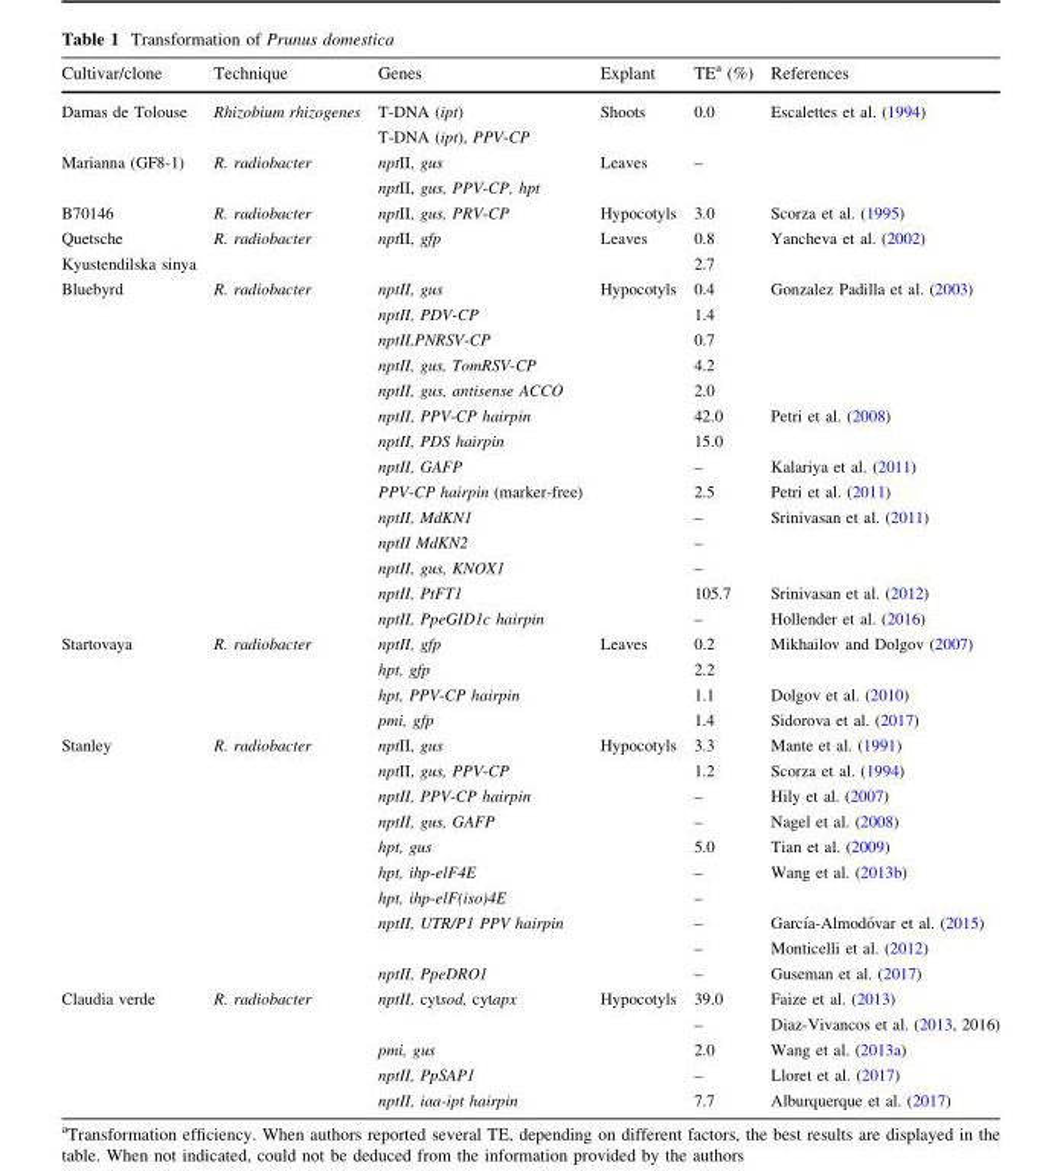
<table><thead><tr><td>Cultivar/clone</td><td>Technique</td><td>Genes</td><td>Explant</td><td>TE<sup>a</sup> (%)</td><td>References</td></tr></thead><tbody><tr><td rowspan="2">Damas de Tolouse</td><td rowspan="2">Rhizobium rhizogenes</td><td>T-DNA (ipt)</td><td rowspan="2">Shoots</td><td rowspan="2">0.0</td><td rowspan="4">Escalettes et al. (1994)</td></tr><tr><td>T-DNA (ipt), PPV-CP</td></tr><tr><td rowspan="2">Marianna (GF8-1)</td><td rowspan="2">R. radiobacter</td><td>nptII, gus</td><td rowspan="2">Leaves</td><td rowspan="2">–</td></tr><tr><td>nptII, gus, PPV-CP, hpt</td></tr><tr><td>B70146</td><td>R. radiobacter</td><td>nptII, gus, PRV-CP</td><td>Hypocotyls</td><td>3.0</td><td>Scorza et al. (1995)</td></tr><tr><td>Quetsche</td><td rowspan="2">R. radiobacter</td><td rowspan="2">nptII, gfp</td><td rowspan="2">Leaves</td><td>0.8</td><td rowspan="2">Yancheva et al. (2002)</td></tr><tr><td>Kyustendilska sinya</td><td>2.7</td></tr><tr><td rowspan="14">Bluebyrd</td><td rowspan="14">R. radiobacter</td><td>nptII, gus</td><td rowspan="14">Hypocotyls</td><td>0.4</td><td rowspan="5">Gonzalez Padilla et al. (2003)</td></tr><tr><td>nptII, PDV-CP</td><td>1.4</td></tr><tr><td>nptII,PNRSV-CP</td><td>0.7</td></tr><tr><td>nptII, gus, TomRSV-CP</td><td>4.2</td></tr><tr><td>nptII, gus, antisense ACCO</td><td>2.0</td></tr><tr><td>nptII, PPV-CP hairpin</td><td>42.0</td><td rowspan="2">Petri et al. (2008)</td></tr><tr><td>nptII, PDS hairpin</td><td>15.0</td></tr><tr><td>nptII, GAFP</td><td>–</td><td>Kalariya et al. (2011)</td></tr><tr><td>PPV-CP hairpin (marker-free)</td><td>2.5</td><td>Petri et al. (2011)</td></tr><tr><td>nptII, MdKN1</td><td>–</td><td rowspan="3">Srinivasan et al. (2011)</td></tr><tr><td>nptII MdKN2</td><td>–</td></tr><tr><td>nptII, gus, KNOX1</td><td>–</td></tr><tr><td>nptII, PtFT1</td><td>105.7</td><td>Srinivasan et al. (2012)</td></tr><tr><td>nptII, PpeGID1c hairpin</td><td>–</td><td>Hollender et al. (2016)</td></tr><tr><td rowspan="4">Startovaya</td><td rowspan="4">R. radiobacter</td><td>nptII, gfp</td><td rowspan="4">Leaves</td><td>0.2</td><td rowspan="2">Mikhailov and Dolgov (2007)</td></tr><tr><td>hpt, gfp</td><td>2.2</td></tr><tr><td>hpt, PPV-CP hairpin</td><td>1.1</td><td>Dolgov et al. (2010)</td></tr><tr><td>pmi, gfp</td><td>1.4</td><td>Sidorova et al. (2017)</td></tr><tr><td rowspan="10">Stanley</td><td rowspan="10">R. radiobacter</td><td>nptII, gus</td><td rowspan="10">Hypocotyls</td><td>3.3</td><td>Mante et al. (1991)</td></tr><tr><td>nptII, gus, PPV-CP</td><td>1.2</td><td>Scorza et al. (1994)</td></tr><tr><td>nptII, PPV-CP hairpin</td><td>–</td><td>Hily et al. (2007)</td></tr><tr><td>nptII, gus, GAFP</td><td>–</td><td>Nagel et al. (2008)</td></tr><tr><td>hpt, gus</td><td>5.0</td><td>Tian et al. (2009)</td></tr><tr><td>hpt, ihp-elF4E</td><td>–</td><td rowspan="2">Wang et al. (2013b)</td></tr><tr><td>hpt, ihp-elF(iso)4E</td><td>–</td></tr><tr><td rowspan="2">nptII, UTR/P1 PPV hairpin</td><td>–</td><td>Garcı´a-Almodo´var et al. (2015)</td></tr><tr><td>–</td><td>Monticelli et al. (2012)</td></tr><tr><td>nptII, PpeDRO1</td><td>–</td><td>Guseman et al. (2017)</td></tr><tr><td rowspan="5">Claudia verde</td><td rowspan="5">R. radiobacter</td><td rowspan="2">nptII, cytsod, cytapx</td><td rowspan="5">Hypocotyls</td><td>39.0</td><td>Faize et al. (2013)</td></tr><tr><td>–</td><td>Diaz-Vivancos et al. (2013, 2016)</td></tr><tr><td>pmi, gus</td><td>2.0</td><td>Wang et al. (2013a)</td></tr><tr><td>nptII, PpSAP1</td><td>–</td><td>Lloret et al. (2017)</td></tr><tr><td>nptII, iaa-ipt hairpin</td><td>7.7</td><td>Alburquerque et al. (2017)</td></tr></tbody></table>